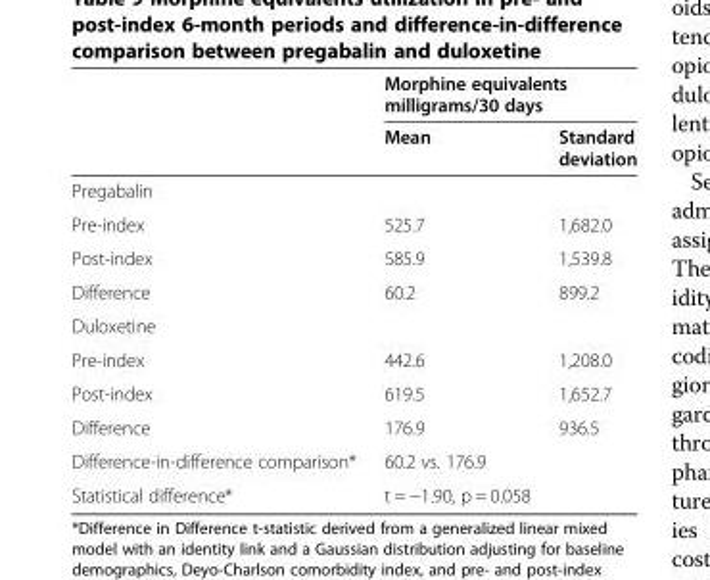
<table><thead><tr><td rowspan="2"></td><td colspan="2">Morphine equivalents milligrams/30 days</td></tr><tr><td>Mean</td><td>Standard deviation</td></tr></thead><tbody><tr><td colspan="3">Pregabalin</td></tr><tr><td>Pre-index</td><td>525.7</td><td>1,682.0</td></tr><tr><td>Post-index</td><td>585.9</td><td>1,539.8</td></tr><tr><td>Difference</td><td>60.2</td><td>899.2</td></tr><tr><td colspan="3">Duloxetine</td></tr><tr><td>Pre-index</td><td>442.6</td><td>1,208.0</td></tr><tr><td>Post-index</td><td>619.5</td><td>1,652.7</td></tr><tr><td>Difference</td><td>176.9</td><td>936.5</td></tr><tr><td>Difference-in-difference comparison*</td><td>60.2 vs. 176.9</td><td rowspan="2"></td></tr><tr><td>Statistical difference*</td><td>t = −1.90, p = 0.058</td></tr></tbody></table>